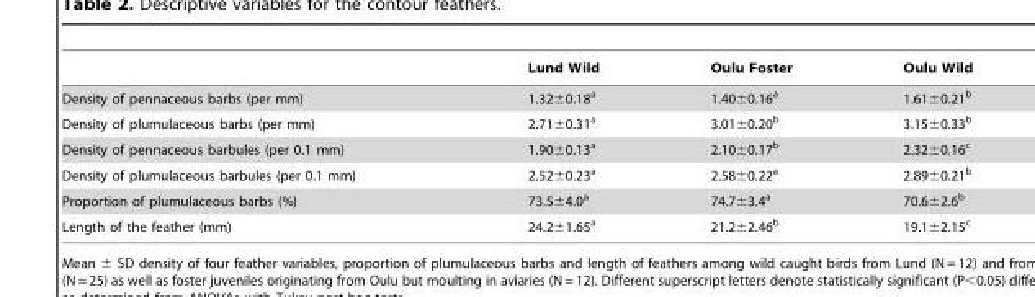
<table><thead><tr><td></td><td>Lund Wild</td><td>Oulu Foster</td><td>Oulu Wild</td></tr></thead><tbody><tr><td>Density of pennaceous barbs (per mm)</td><td>1.32±0.18<sup>a</sup></td><td>1.40±0.16<sup>a</sup></td><td>1.61±0.21<sup>b</sup></td></tr><tr><td>Density of plumulaceous barbs (per mm)</td><td>2.71±0.31<sup>a</sup></td><td>3.01±0.20<sup>b</sup></td><td>3.15±0.33<sup>b</sup></td></tr><tr><td>Density of pennaceous barbules (per 0.1 mm)</td><td>1.90±0.13<sup>a</sup></td><td>2.10±0.17<sup>b</sup></td><td>2.32±0.16<sup>c</sup></td></tr><tr><td>Density of plumulaceous barbules (per 0.1 mm)</td><td>2.52±0.23<sup>a</sup></td><td>2.58±0.22<sup>a</sup></td><td>2.89±0.21<sup>b</sup></td></tr><tr><td>Proportion of plumulaceous barbs (%)</td><td>73.5±4.0<sup>a</sup></td><td>74.7±3.4<sup>a</sup></td><td>70.6±2.6<sup>b</sup></td></tr><tr><td>Length of the feather (mm)</td><td>24.2±1.65<sup>a</sup></td><td>21.2±2.46<sup>b</sup></td><td>19.1±2.15<sup>c</sup></td></tr></tbody></table>